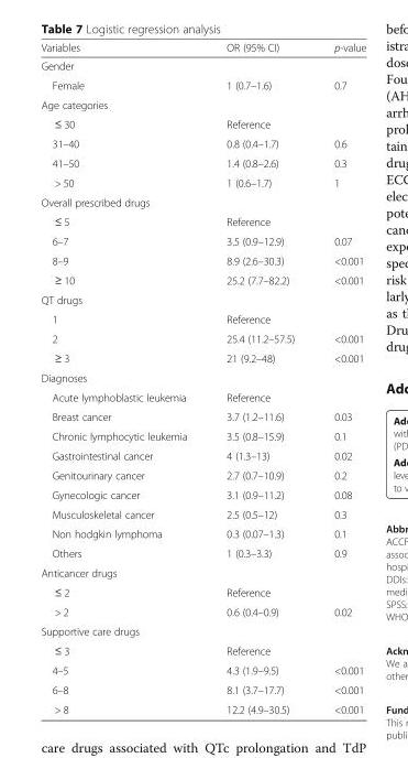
<table><thead><tr><td>Variables</td><td>OR (95% CI)</td><td>p-value</td></tr></thead><tbody><tr><td colspan="3">Gender</td></tr><tr><td>Female</td><td>1 (0.7–1.6)</td><td>0.7</td></tr><tr><td colspan="3">Age categories</td></tr><tr><td>≤ 30</td><td colspan="2">Reference</td></tr><tr><td>31–40</td><td>0.8 (0.4–1.7)</td><td>0.6</td></tr><tr><td>41–50</td><td>1.4 (0.8–2.6)</td><td>0.3</td></tr><tr><td>&gt; 50</td><td>1 (0.6–1.7)</td><td>1</td></tr><tr><td colspan="3">Overall prescribed drugs</td></tr><tr><td>≤ 5</td><td colspan="2">Reference</td></tr><tr><td>6–7</td><td>3.5 (0.9–12.9)</td><td>0.07</td></tr><tr><td>8–9</td><td>8.9 (2.6–30.3)</td><td>&lt;0.001</td></tr><tr><td>≥ 10</td><td>25.2 (7.7–82.2)</td><td>&lt;0.001</td></tr><tr><td colspan="3">QT drugs</td></tr><tr><td>1</td><td colspan="2">Reference</td></tr><tr><td>2</td><td>25.4 (11.2–57.5)</td><td>&lt;0.001</td></tr><tr><td>≥ 3</td><td>21 (9.2–48)</td><td>&lt;0.001</td></tr><tr><td colspan="3">Diagnoses</td></tr><tr><td>Acute lymphoblastic leukemia</td><td colspan="2">Reference</td></tr><tr><td>Breast cancer</td><td>3.7 (1.2–11.6)</td><td>0.03</td></tr><tr><td>Chronic lymphocytic leukemia</td><td>3.5 (0.8–15.9)</td><td>0.1</td></tr><tr><td>Gastrointestinal cancer</td><td>4 (1.3–13)</td><td>0.02</td></tr><tr><td>Genitourinary cancer</td><td>2.7 (0.7–10.9)</td><td>0.2</td></tr><tr><td>Gynecologic cancer</td><td>3.1 (0.9–11.2)</td><td>0.08</td></tr><tr><td>Musculoskeletal cancer</td><td>2.5 (0.5–12)</td><td>0.3</td></tr><tr><td>Non hodgkin lymphoma</td><td>0.3 (0.07–1.3)</td><td>0.1</td></tr><tr><td>Others</td><td>1 (0.3–3.3)</td><td>0.9</td></tr><tr><td colspan="3">Anticancer drugs</td></tr><tr><td>≤ 2</td><td>Reference</td><td></td></tr><tr><td>&gt; 2</td><td>0.6 (0.4–0.9)</td><td>0.02</td></tr><tr><td colspan="3">Supportive care drugs</td></tr><tr><td>≤ 3</td><td>Reference</td><td></td></tr><tr><td>4–5</td><td>4.3 (1.9–9.5)</td><td>&lt;0.001</td></tr><tr><td>6–8</td><td>8.1 (3.7–17.7)</td><td>&lt;0.001</td></tr><tr><td>&gt; 8</td><td>12.2 (4.9–30.5)</td><td>&lt;0.001</td></tr></tbody></table>